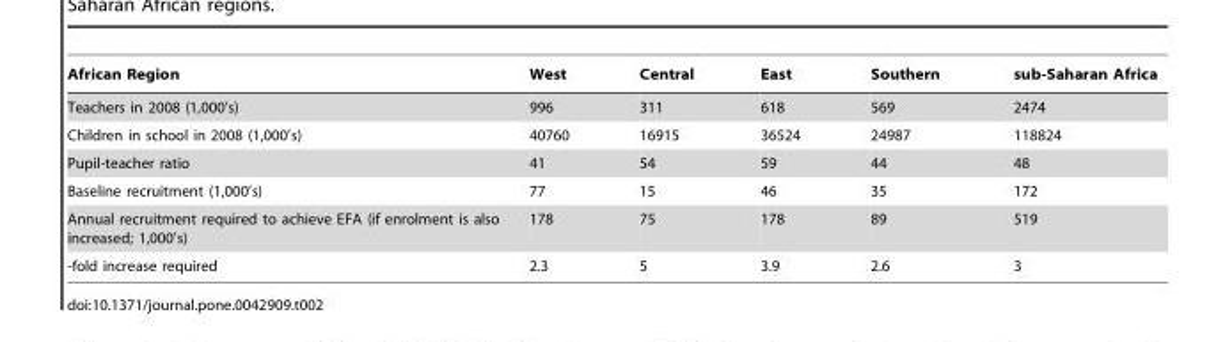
<table><thead><tr><td>African Region</td><td>West</td><td>Central</td><td>East</td><td>Southern</td><td>sub-Saharan Africa</td></tr></thead><tbody><tr><td>Teachers in 2008 (1,000’s)</td><td>996</td><td>311</td><td>618</td><td>569</td><td>2474</td></tr><tr><td>Children in school in 2008 (1,000’s)</td><td>40760</td><td>16915</td><td>36524</td><td>24987</td><td>118824</td></tr><tr><td>Pupil-teacher ratio</td><td>41</td><td>54</td><td>59</td><td>44</td><td>48</td></tr><tr><td>Baseline recruitment (1,000’s)</td><td>77</td><td>15</td><td>46</td><td>35</td><td>172</td></tr><tr><td>Annual recruitment required to achieve EFA (if enrolment is also increased; 1,000’s)</td><td>178</td><td>75</td><td>178</td><td>89</td><td>519</td></tr><tr><td>-fold increase required</td><td>2.3</td><td>5</td><td>3.9</td><td>2.6</td><td>3</td></tr></tbody></table>